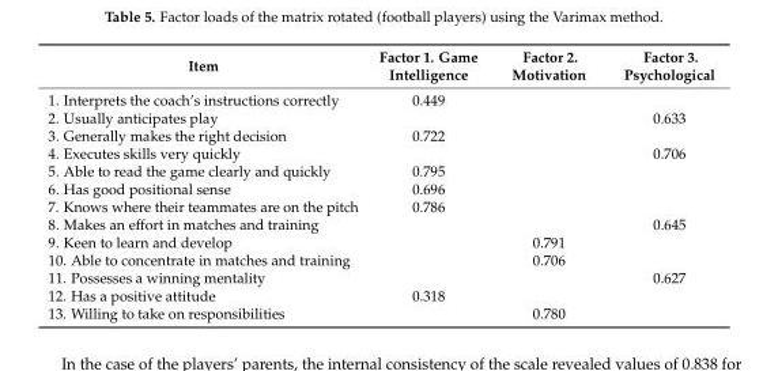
<table><thead><tr><td>Item</td><td>Factor 1. Game Intelligence</td><td>Factor 2. Motivation</td><td>Factor 3. Psychological</td></tr></thead><tbody><tr><td>1. Interprets the coach’s instructions correctly</td><td>0.449</td><td></td><td></td></tr><tr><td>2. Usually anticipates play</td><td></td><td></td><td>0.633</td></tr><tr><td>3. Generally makes the right decision</td><td>0.722</td><td></td><td></td></tr><tr><td>4. Executes skills very quickly</td><td></td><td></td><td>0.706</td></tr><tr><td>5. Able to read the game clearly and quickly</td><td>0.795</td><td></td><td></td></tr><tr><td>6. Has good positional sense</td><td>0.696</td><td></td><td></td></tr><tr><td>7. Knows where their teammates are on the pitch</td><td>0.786</td><td></td><td></td></tr><tr><td>8. Makes an effort in matches and training</td><td></td><td></td><td>0.645</td></tr><tr><td>9. Keen to learn and develop</td><td></td><td>0.791</td><td></td></tr><tr><td>10. Able to concentrate in matches and training</td><td></td><td>0.706</td><td></td></tr><tr><td>11. Possesses a winning mentality</td><td></td><td></td><td>0.627</td></tr><tr><td>12. Has a positive attitude</td><td>0.318</td><td></td><td></td></tr><tr><td>13. Willing to take on responsibilities</td><td></td><td>0.780</td><td></td></tr></tbody></table>